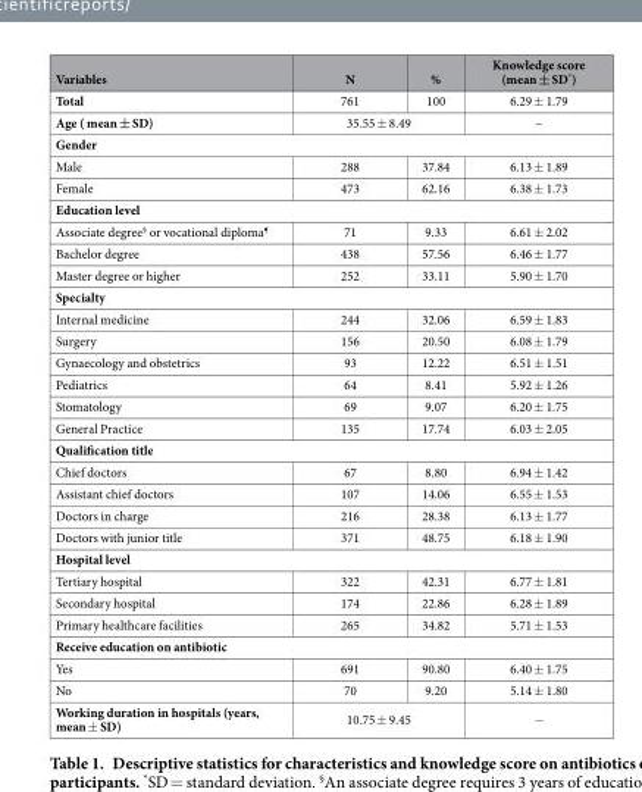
<table><thead><tr><td>Variables</td><td>N</td><td>%</td><td>Knowledge score (mean ± SD*)</td></tr></thead><tbody><tr><td>Total</td><td>761</td><td>100</td><td>6.29 ± 1.79</td></tr><tr><td>Age ( mean ± SD)</td><td colspan="2">35.55 ± 8.49</td><td>–</td></tr><tr><td colspan="4">Gender</td></tr><tr><td>Male</td><td>288</td><td>37.84</td><td>6.13 ± 1.89</td></tr><tr><td>Female</td><td>473</td><td>62.16</td><td>6.38 ± 1.73</td></tr><tr><td colspan="4">Education level</td></tr><tr><td>Associate degree§ or vocational diploma¶</td><td>71</td><td>9.33</td><td>6.61 ± 2.02</td></tr><tr><td>Bachelor degree</td><td>438</td><td>57.56</td><td>6.46 ± 1.77</td></tr><tr><td>Master degree or higher</td><td>252</td><td>33.11</td><td>5.90 ± 1.70</td></tr><tr><td colspan="4">Specialty</td></tr><tr><td>Internal medicine</td><td>244</td><td>32.06</td><td>6.59 ± 1.83</td></tr><tr><td>Surgery</td><td>156</td><td>20.50</td><td>6.08 ± 1.79</td></tr><tr><td>Gynaecology and obstetrics</td><td>93</td><td>12.22</td><td>6.51 ± 1.51</td></tr><tr><td>Pediatrics</td><td>64</td><td>8.41</td><td>5.92 ± 1.26</td></tr><tr><td>Stomatology</td><td>69</td><td>9.07</td><td>6.20 ± 1.75</td></tr><tr><td>General Practice</td><td>135</td><td>17.74</td><td>6.03 ± 2.05</td></tr><tr><td colspan="4">Qualification title</td></tr><tr><td>Chief doctors</td><td>67</td><td>8.80</td><td>6.94 ± 1.42</td></tr><tr><td>Assistant chief doctors</td><td>107</td><td>14.06</td><td>6.55 ± 1.53</td></tr><tr><td>Doctors in charge</td><td>216</td><td>28.38</td><td>6.13 ± 1.77</td></tr><tr><td>Doctors with junior title</td><td>371</td><td>48.75</td><td>6.18 ± 1.90</td></tr><tr><td colspan="4">Hospital level</td></tr><tr><td>Tertiary hospital</td><td>322</td><td>42.31</td><td>6.77 ± 1.81</td></tr><tr><td>Secondary hospital</td><td>174</td><td>22.86</td><td>6.28 ± 1.89</td></tr><tr><td>Primary healthcare facilities</td><td>265</td><td>34.82</td><td>5.71 ± 1.53</td></tr><tr><td colspan="4">Receive education on antibiotic</td></tr><tr><td>Yes</td><td>691</td><td>90.80</td><td>6.40 ± 1.75</td></tr><tr><td>No</td><td>70</td><td>9.20</td><td>5.14 ± 1.80</td></tr><tr><td>Working duration in hospitals (years, mean ± SD)</td><td colspan="2">10.75 ± 9.45</td><td>−</td></tr></tbody></table>